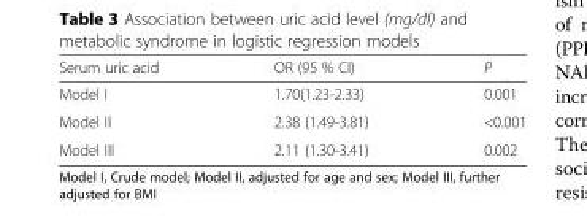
<table><thead><tr><td>Serum uric acid</td><td>OR (95 % CI)</td><td>P</td></tr></thead><tbody><tr><td>Model I</td><td>1.70(1.23-2.33)</td><td>0.001</td></tr><tr><td>Model II</td><td>2.38 (1.49-3.81)</td><td>&lt;0.001</td></tr><tr><td>Model III</td><td>2.11 (1.30-3.41)</td><td>0.002</td></tr></tbody></table>